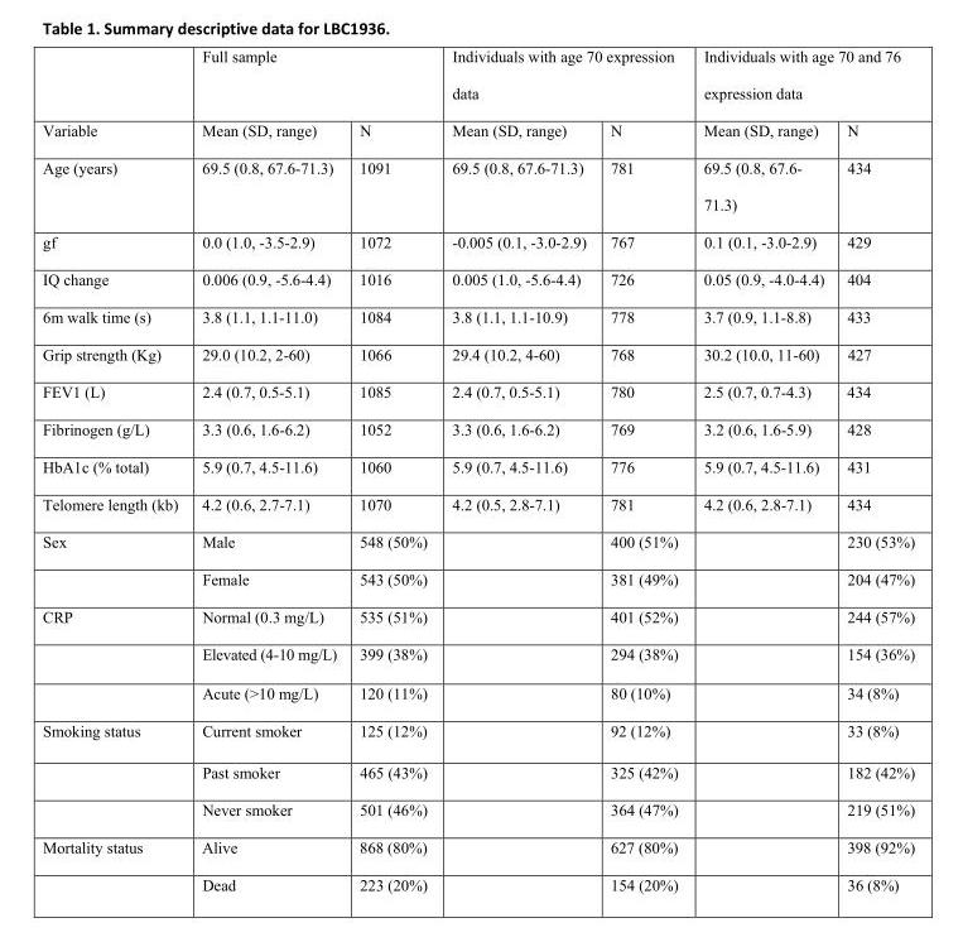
<table><thead><tr><td rowspan="2">Variable</td><td colspan="2">Full sample</td><td colspan="2">Individuals with age 70 expression data</td><td colspan="2">Individuals with age 70 and 76 expression data</td></tr><tr><td>Mean (SD, range)</td><td>N</td><td>Mean (SD, range)</td><td>N</td><td>Mean (SD, range)</td><td>N</td></tr></thead><tbody><tr><td>Age (years)</td><td>69.5 (0.8, 67.6-71.3)</td><td>1091</td><td>69.5 (0.8, 67.6-71.3)</td><td>781</td><td>69.5 (0.8, 67.6- 71.3)</td><td>434</td></tr><tr><td>gf</td><td>0.0 (1.0, -3.5-2.9)</td><td>1072</td><td>-0.005 (0.1, -3.0-2.9)</td><td>767</td><td>0.1 (0.1, -3.0-2.9)</td><td>429</td></tr><tr><td>IQ change</td><td>0.006 (0.9, -5.6-4.4)</td><td>1016</td><td>0.005 (1.0, -5.6-4.4)</td><td>726</td><td>0.05 (0.9, -4.0-4.4)</td><td>404</td></tr><tr><td>6m walk time (s)</td><td>3.8 (1.1, 1.1-11.0)</td><td>1084</td><td>3.8 (1.1, 1.1-10.9)</td><td>778</td><td>3.7 (0.9, 1.1-8.8)</td><td>433</td></tr><tr><td>Grip strength (Kg)</td><td>29.0 (10.2, 2-60)</td><td>1066</td><td>29.4 (10.2, 4-60)</td><td>768</td><td>30.2 (10.0, 11-60)</td><td>427</td></tr><tr><td>FEV1 (L)</td><td>2.4 (0.7, 0.5-5.1)</td><td>1085</td><td>2.4 (0.7, 0.5-5.1)</td><td>780</td><td>2.5 (0.7, 0.7-4.3)</td><td>434</td></tr><tr><td>Fibrinogen (g/L)</td><td>3.3 (0.6, 1.6-6.2)</td><td>1052</td><td>3.3 (0.6, 1.6-6.2)</td><td>769</td><td>3.2 (0.6, 1.6-5.9)</td><td>428</td></tr><tr><td>HbA1c (% total)</td><td>5.9 (0.7, 4.5-11.6)</td><td>1060</td><td>5.9 (0.7, 4.5-11.6)</td><td>776</td><td>5.9 (0.7, 4.5-11.6)</td><td>431</td></tr><tr><td>Telomere length (kb)</td><td>4.2 (0.6, 2.7-7.1)</td><td>1070</td><td>4.2 (0.5, 2.8-7.1)</td><td>781</td><td>4.2 (0.6, 2.8-7.1)</td><td>434</td></tr><tr><td rowspan="2">Sex</td><td>Male</td><td>548 (50%)</td><td></td><td>400 (51%)</td><td></td><td>230 (53%)</td></tr><tr><td>Female</td><td>543 (50%)</td><td></td><td>381 (49%)</td><td></td><td>204 (47%)</td></tr><tr><td rowspan="3">CRP</td><td>Normal (0.3 mg/L)</td><td>535 (51%)</td><td></td><td>401 (52%)</td><td></td><td>244 (57%)</td></tr><tr><td>Elevated (4-10 mg/L)</td><td>399 (38%)</td><td></td><td>294 (38%)</td><td></td><td>154 (36%)</td></tr><tr><td>Acute (&gt;10 mg/L)</td><td>120 (11%)</td><td></td><td>80 (10%)</td><td></td><td>34 (8%)</td></tr><tr><td rowspan="3">Smoking status</td><td>Current smoker</td><td>125 (12%)</td><td></td><td>92 (12%)</td><td></td><td>33 (8%)</td></tr><tr><td>Past smoker</td><td>465 (43%)</td><td></td><td>325 (42%)</td><td></td><td>182 (42%)</td></tr><tr><td>Never smoker</td><td>501 (46%)</td><td></td><td>364 (47%)</td><td></td><td>219 (51%)</td></tr><tr><td rowspan="2">Mortality status</td><td>Alive</td><td>868 (80%)</td><td></td><td>627 (80%)</td><td></td><td>398 (92%)</td></tr><tr><td>Dead</td><td>223 (20%)</td><td></td><td>154 (20%)</td><td></td><td>36 (8%)</td></tr></tbody></table>